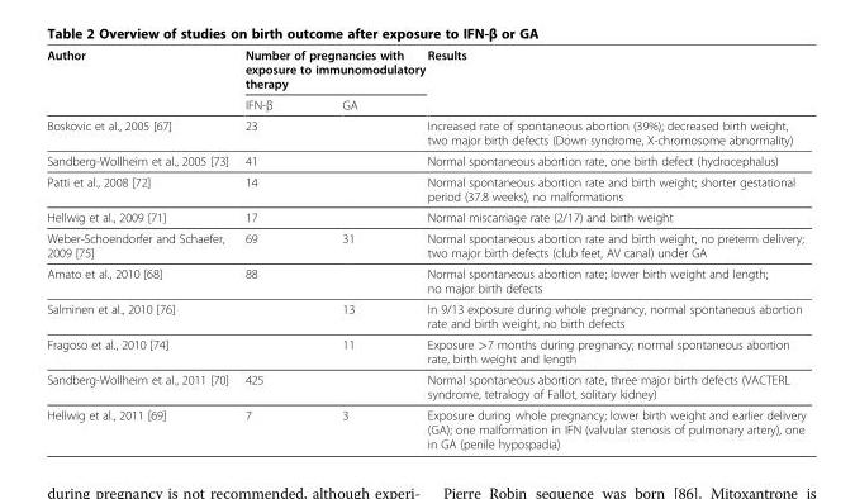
<table><thead><tr><td rowspan="2">Author</td><td colspan="2">Number of pregnancies with exposure to immunomodulatory therapy</td><td rowspan="2">Results</td></tr><tr><td>IFN-β</td><td>GA</td></tr></thead><tbody><tr><td>Boskovic et al., 2005 [67]</td><td>23</td><td></td><td>Increased rate of spontaneous abortion (39%); decreased birth weight, two major birth defects (Down syndrome, X-chromosome abnormality)</td></tr><tr><td>Sandberg-Wollheim et al., 2005 [73]</td><td>41</td><td></td><td>Normal spontaneous abortion rate, one birth defect (hydrocephalus)</td></tr><tr><td>Patti et al., 2008 [72]</td><td>14</td><td></td><td>Normal spontaneous abortion rate and birth weight; shorter gestational period (37.8 weeks), no malformations</td></tr><tr><td>Hellwig et al., 2009 [71]</td><td>17</td><td></td><td>Normal miscarriage rate (2/17) and birth weight</td></tr><tr><td>Weber-Schoendorfer and Schaefer, 2009 [75]</td><td>69</td><td>31</td><td>Normal spontaneous abortion rate and birth weight, no preterm delivery; two major birth defects (club feet, AV canal) under GA</td></tr><tr><td>Amato et al., 2010 [68]</td><td>88</td><td></td><td>Normal spontaneous abortion rate; lower birth weight and length; no major birth defects</td></tr><tr><td>Salminen et al., 2010 [76]</td><td></td><td>13</td><td>In 9/13 exposure during whole pregnancy, normal spontaneous abortion rate and birth weight, no birth defects</td></tr><tr><td>Fragoso et al., 2010 [74]</td><td></td><td>11</td><td>Exposure &gt;7 months during pregnancy; normal spontaneous abortion rate, birth weight and length</td></tr><tr><td>Sandberg-Wollheim et al., 2011 [70]</td><td>425</td><td></td><td>Normal spontaneous abortion rate, three major birth defects (VACTERL syndrome, tetralogy of Fallot, solitary kidney)</td></tr><tr><td>Hellwig et al., 2011 [69]</td><td>7</td><td>3</td><td>Exposure during whole pregnancy; lower birth weight and earlier delivery (GA); one malformation in IFN (valvular stenosis of pulmonary artery), one in GA (penile hypospadia)</td></tr></tbody></table>